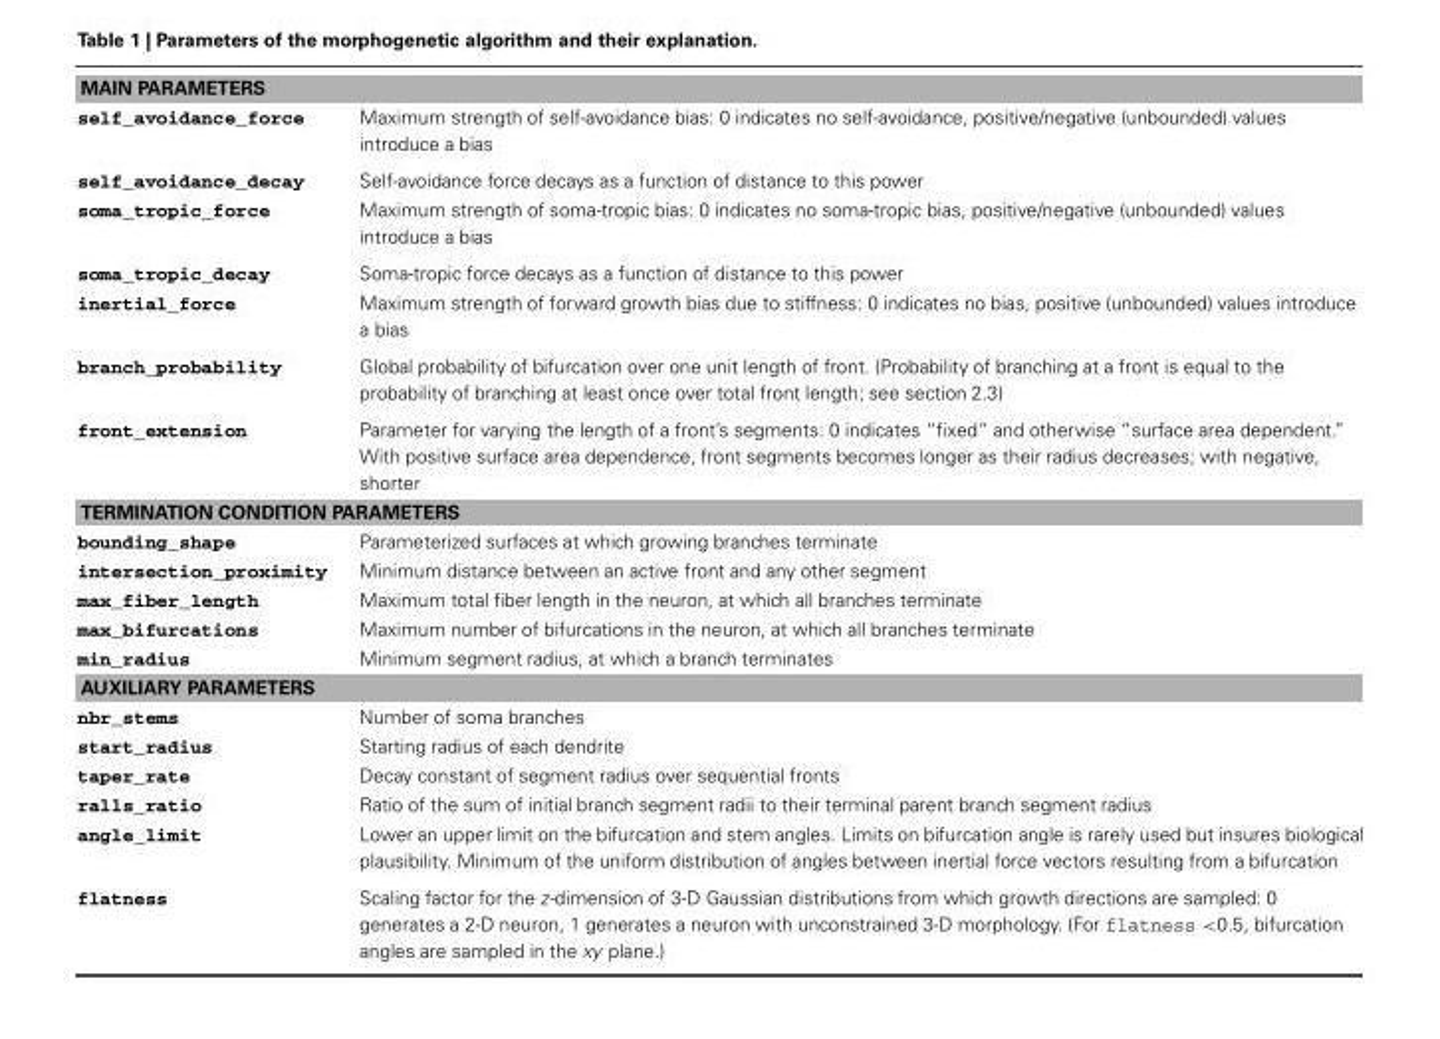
<table><tbody><tr><td colspan="2">MAIN PARAMETERS</td></tr><tr><td>self_avoidance_force</td><td>Maximum strength of self-avoidance bias: 0 indicates no self-avoidance, positive/negative (unbounded) values introduce a bias</td></tr><tr><td>self_avoidance_decay</td><td>Self-avoidance force decays as a function of distance to this power</td></tr><tr><td>soma_tropic_force</td><td>Maximum strength of soma-tropic bias: 0 indicates no soma-tropic bias, positive/negative (unbounded) values introduce a bias</td></tr><tr><td>soma_tropic_decay</td><td>Soma-tropic force decays as a function of distance to this power</td></tr><tr><td>inertial_force</td><td>Maximum strength of forward growth bias due to stiffness: 0 indicates no bias, positive (unbounded) values introduce a bias</td></tr><tr><td>branch_probability</td><td>Global probability of bifurcation over one unit length of front. (Probability of branching at a front is equal to the probability of branching at least once over total front length; see section 2.3)</td></tr><tr><td>front_extension</td><td>Parameter for varying the length of a front’s segments: 0 indicates “fixed” and otherwise “surface area dependent.” With positive surface area dependence, front segments becomes longer as their radius decreases; with negative, shorter</td></tr><tr><td colspan="2">TERMINATION CONDITION PARAMETERS</td></tr><tr><td>bounding_shape</td><td>Parameterized surfaces at which growing branches terminate</td></tr><tr><td>intersection_proximity</td><td>Minimum distance between an active front and any other segment</td></tr><tr><td>max_fiber_length</td><td>Maximum total fiber length in the neuron, at which all branches terminate</td></tr><tr><td>max_bifurcations</td><td>Maximum number of bifurcations in the neuron, at which all branches terminate</td></tr><tr><td>min_radius</td><td>Minimum segment radius, at which a branch terminates</td></tr><tr><td colspan="2">AUXILIARY PARAMETERS</td></tr><tr><td>nbr_stems</td><td>Number of soma branches</td></tr><tr><td>start_radius</td><td>Starting radius of each dendrite</td></tr><tr><td>taper_rate</td><td>Decay constant of segment radius over sequential fronts</td></tr><tr><td>ralls_ratio</td><td>Ratio of the sum of initial branch segment radii to their terminal parent branch segment radius</td></tr><tr><td>angle_limit</td><td>Lower an upper limit on the bifurcation and stem angles. Limits on bifurcation angle is rarely used but insures biological plausibility. Minimum of the uniform distribution of angles between inertial force vectors resulting from a bifurcation</td></tr><tr><td>flatness</td><td>Scaling factor for the z-dimension of 3-D Gaussian distributions from which growth directions are sampled: 0 generates a 2-D neuron, 1 generates a neuron with unconstrained 3-D morphology. (For flatness &lt;0.5, bifurcation angles are sampled in the xy plane.)</td></tr></tbody></table>